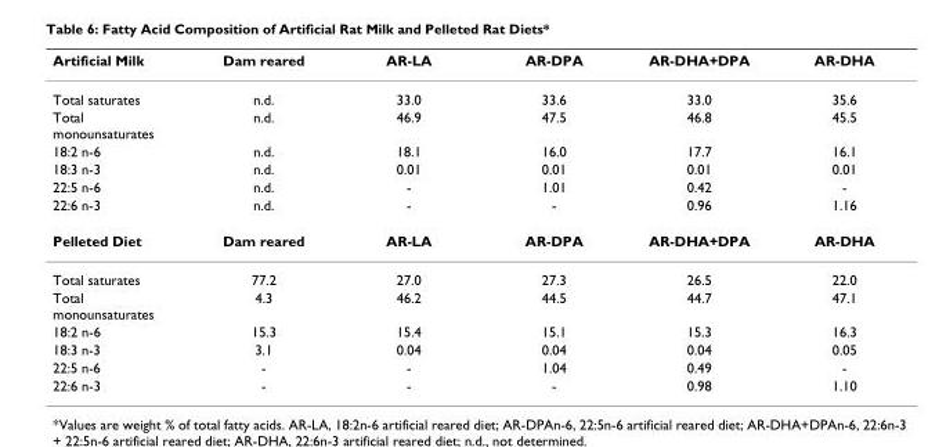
<table><thead><tr><td>Artificial Milk</td><td>Dam reared</td><td>AR-LA</td><td>AR-DPA</td><td>AR-DHA+DPA</td><td>AR-DHA</td></tr></thead><tbody><tr><td>Total saturates</td><td>n.d.</td><td>33.0</td><td>33.6</td><td>33.0</td><td>35.6</td></tr><tr><td>Total monounsaturates</td><td>n.d.</td><td>46.9</td><td>47.5</td><td>46.8</td><td>45.5</td></tr><tr><td>18:2 n-6</td><td>n.d.</td><td>18.1</td><td>16.0</td><td>17.7</td><td>16.1</td></tr><tr><td>18:3 n-3</td><td>n.d.</td><td>0.01</td><td>0.01</td><td>0.01</td><td>0.01</td></tr><tr><td>22:5 n-6</td><td>n.d.</td><td>-</td><td>1.01</td><td>0.42</td><td>-</td></tr><tr><td>22:6 n-3</td><td>n.d.</td><td>-</td><td>-</td><td>0.96</td><td>1.16</td></tr><tr><td>Pelleted Diet</td><td>Dam reared</td><td>AR-LA</td><td>AR-DPA</td><td>AR-DHA+DPA</td><td>AR-DHA</td></tr><tr><td>Total saturates</td><td>77.2</td><td>27.0</td><td>27.3</td><td>26.5</td><td>22.0</td></tr><tr><td>Total monounsaturates</td><td>4.3</td><td>46.2</td><td>44.5</td><td>44.7</td><td>47.1</td></tr><tr><td>18:2 n-6</td><td>15.3</td><td>15.4</td><td>15.1</td><td>15.3</td><td>16.3</td></tr><tr><td>18:3 n-3</td><td>3.1</td><td>0.04</td><td>0.04</td><td>0.04</td><td>0.05</td></tr><tr><td>22:5 n-6</td><td>-</td><td>-</td><td>1.04</td><td>0.49</td><td>-</td></tr><tr><td>22:6 n-3</td><td>-</td><td>-</td><td>-</td><td>0.98</td><td>1.10</td></tr></tbody></table>